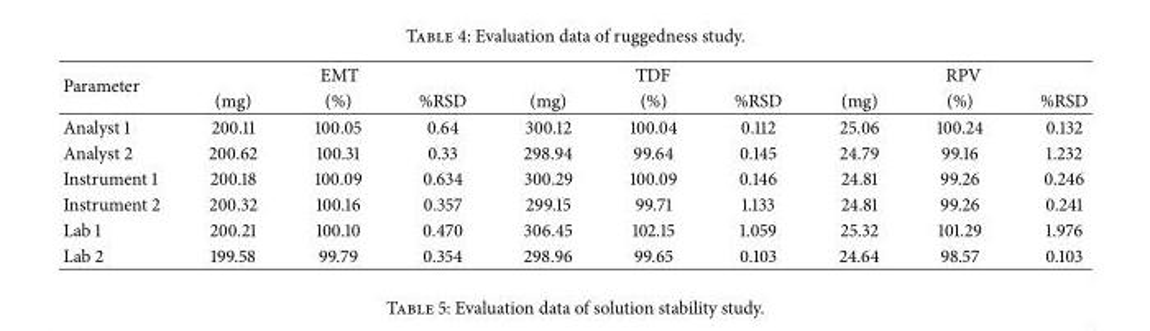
<table><thead><tr><td rowspan="2">Parameter</td><td colspan="3">EMT</td><td colspan="3">TDF</td><td colspan="3">RPV</td></tr><tr><td>(mg)</td><td>(%)</td><td>%RSD</td><td>(mg)</td><td>(%)</td><td>%RSD</td><td>(mg)</td><td>(%)</td><td>%RSD</td></tr></thead><tbody><tr><td>Analyst 1</td><td>200.11</td><td>100.05</td><td>0.64</td><td>300.12</td><td>100.04</td><td>0.112</td><td>25.06</td><td>100.24</td><td>0.132</td></tr><tr><td>Analyst 2</td><td>200.62</td><td>100.31</td><td>0.33</td><td>298.94</td><td>99.64</td><td>0.145</td><td>24.79</td><td>99.16</td><td>1.232</td></tr><tr><td>Instrument 1</td><td>200.18</td><td>100.09</td><td>0.634</td><td>300.29</td><td>100.09</td><td>0.146</td><td>24.81</td><td>99.26</td><td>0.246</td></tr><tr><td>Instrument 2</td><td>200.32</td><td>100.16</td><td>0.357</td><td>299.15</td><td>99.71</td><td>1.133</td><td>24.81</td><td>99.26</td><td>0.241</td></tr><tr><td>Lab 1</td><td>200.21</td><td>100.10</td><td>0.470</td><td>306.45</td><td>102.15</td><td>1.059</td><td>25.32</td><td>101.29</td><td>1.976</td></tr><tr><td>Lab 2</td><td>199.58</td><td>99.79</td><td>0.354</td><td>298.96</td><td>99.65</td><td>0.103</td><td>24.64</td><td>98.57</td><td>0.103</td></tr></tbody></table>